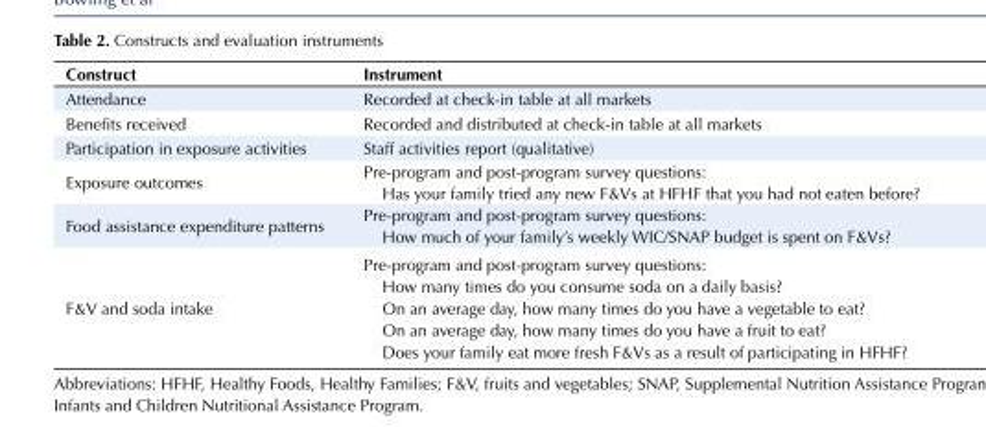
<table><tbody><tr><td>Construct</td><td>Instrument</td></tr><tr><td>Attendance</td><td>Recorded at check-in table at all markets</td></tr><tr><td>Benefits received</td><td>Recorded and distributed at check-in table at all markets</td></tr><tr><td>Participation in exposure activities</td><td>Staff activities report (qualitative)</td></tr><tr><td rowspan="2">Exposure outcomes</td><td>Pre-program and post-program survey questions:</td></tr><tr><td>Has your family tried any new F&amp;Vs at HFHF that you had not eaten before?</td></tr><tr><td rowspan="2">Food assistance expenditure patterns</td><td>Pre-program and post-program survey questions:</td></tr><tr><td>How much of your family’s weekly WIC/SNAP budget is spent on F&amp;Vs?</td></tr><tr><td rowspan="5">F&amp;V and soda intake</td><td>Pre-program and post-program survey questions:</td></tr><tr><td>How many times do you consume soda on a daily basis?</td></tr><tr><td>On an average day, how many times do you have a vegetable to eat?</td></tr><tr><td>On an average day, how many times do you have a fruit to eat?</td></tr><tr><td>Does your family eat more fresh F&amp;Vs as a result of participating in HFHF?</td></tr></tbody></table>